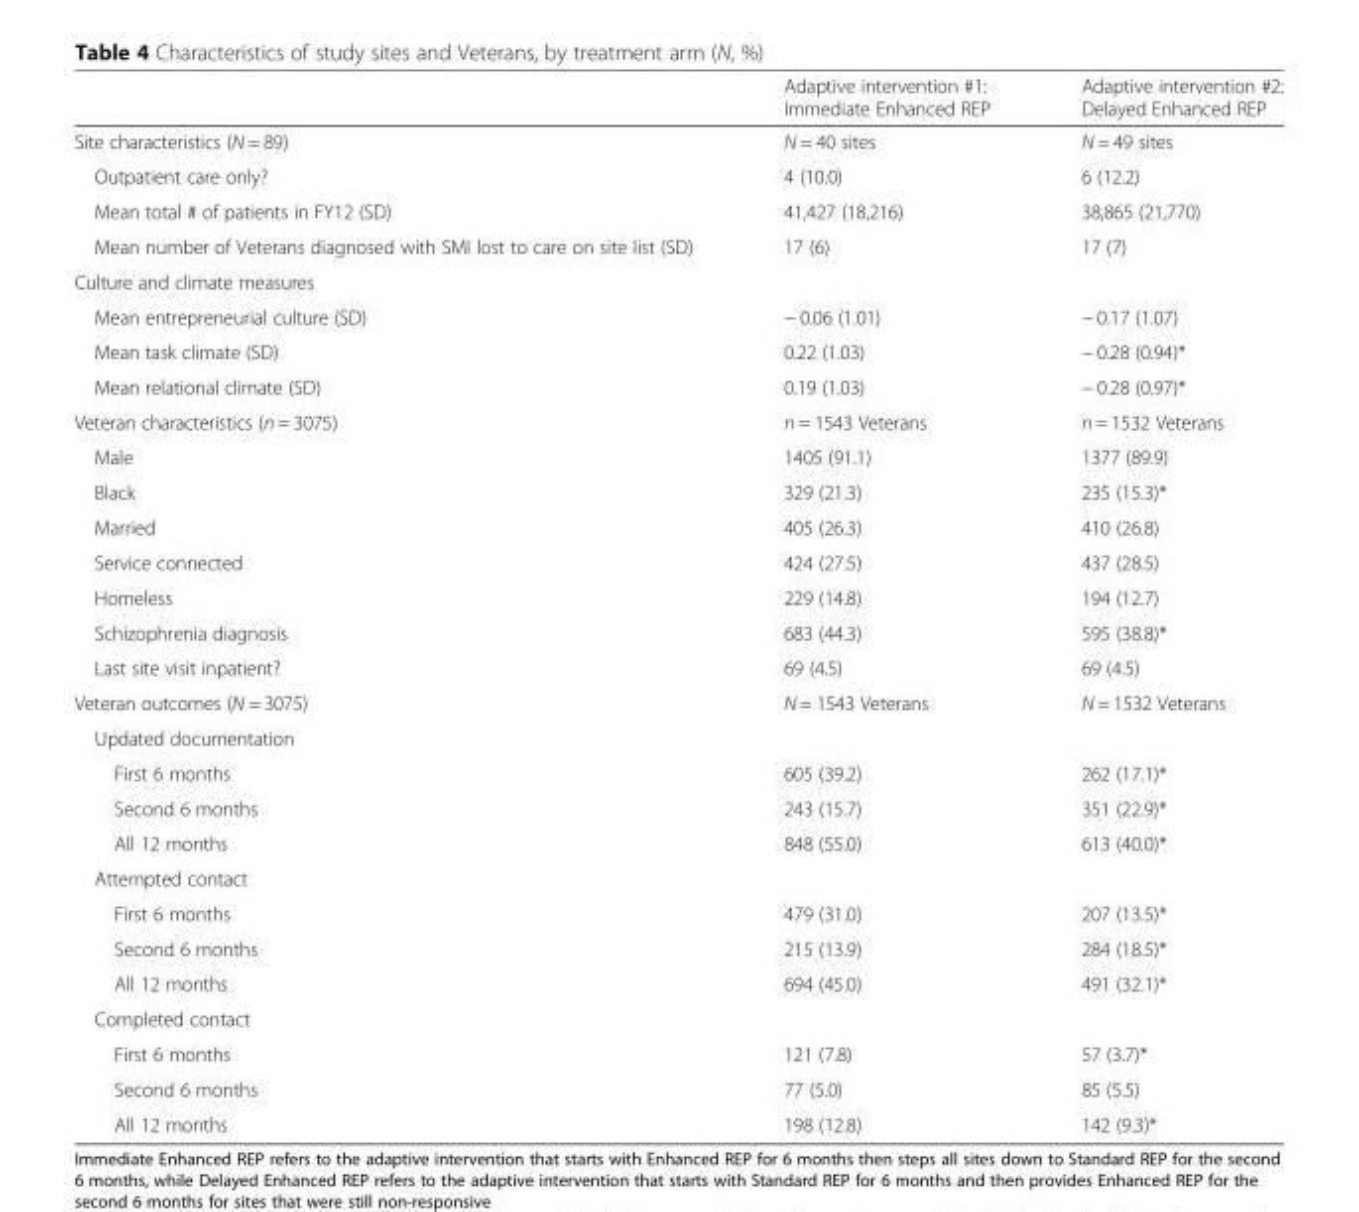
<table><thead><tr><td></td><td>Adaptive intervention #1: Immediate Enhanced REP</td><td>Adaptive intervention #2: Delayed Enhanced REP</td></tr></thead><tbody><tr><td>Site characteristics (N = 89)</td><td>N = 40 sites</td><td>N = 49 sites</td></tr><tr><td>Outpatient care only?</td><td>4 (10.0)</td><td>6 (12.2)</td></tr><tr><td>Mean total # of patients in FY12 (SD)</td><td>41,427 (18,216)</td><td>38,865 (21,770)</td></tr><tr><td>Mean number of Veterans diagnosed with SMI lost to care on site list (SD)</td><td>17 (6)</td><td>17 (7)</td></tr><tr><td colspan="3">Culture and climate measures</td></tr><tr><td>Mean entrepreneurial culture (SD)</td><td>− 0.06 (1.01)</td><td>− 0.17 (1.07)</td></tr><tr><td>Mean task climate (SD)</td><td>0.22 (1.03)</td><td>− 0.28 (0.94)*</td></tr><tr><td>Mean relational climate (SD)</td><td>0.19 (1.03)</td><td>− 0.28 (0.97)*</td></tr><tr><td>Veteran characteristics (n = 3075)</td><td>n = 1543 Veterans</td><td>n = 1532 Veterans</td></tr><tr><td>Male</td><td>1405 (91.1)</td><td>1377 (89.9)</td></tr><tr><td>Black</td><td>329 (21.3)</td><td>235 (15.3)*</td></tr><tr><td>Married</td><td>405 (26.3)</td><td>410 (26.8)</td></tr><tr><td>Service connected</td><td>424 (27.5)</td><td>437 (28.5)</td></tr><tr><td>Homeless</td><td>229 (14.8)</td><td>194 (12.7)</td></tr><tr><td>Schizophrenia diagnosis</td><td>683 (44.3)</td><td>595 (38.8)*</td></tr><tr><td>Last site visit inpatient?</td><td>69 (4.5)</td><td>69 (4.5)</td></tr><tr><td>Veteran outcomes (N = 3075)</td><td>N = 1543 Veterans</td><td>N = 1532 Veterans</td></tr><tr><td colspan="3">Updated documentation</td></tr><tr><td>First 6 months</td><td>605 (39.2)</td><td>262 (17.1)*</td></tr><tr><td>Second 6 months</td><td>243 (15.7)</td><td>351 (22.9)*</td></tr><tr><td>All 12 months</td><td>848 (55.0)</td><td>613 (40.0)*</td></tr><tr><td colspan="3">Attempted contact</td></tr><tr><td>First 6 months</td><td>479 (31.0)</td><td>207 (13.5)*</td></tr><tr><td>Second 6 months</td><td>215 (13.9)</td><td>284 (18.5)*</td></tr><tr><td>All 12 months</td><td>694 (45.0)</td><td>491 (32.1)*</td></tr><tr><td colspan="3">Completed contact</td></tr><tr><td>First 6 months</td><td>121 (7.8)</td><td>57 (3.7)*</td></tr><tr><td>Second 6 months</td><td>77 (5.0)</td><td>85 (5.5)</td></tr><tr><td>All 12 months</td><td>198 (12.8)</td><td>142 (9.3)*</td></tr></tbody></table>